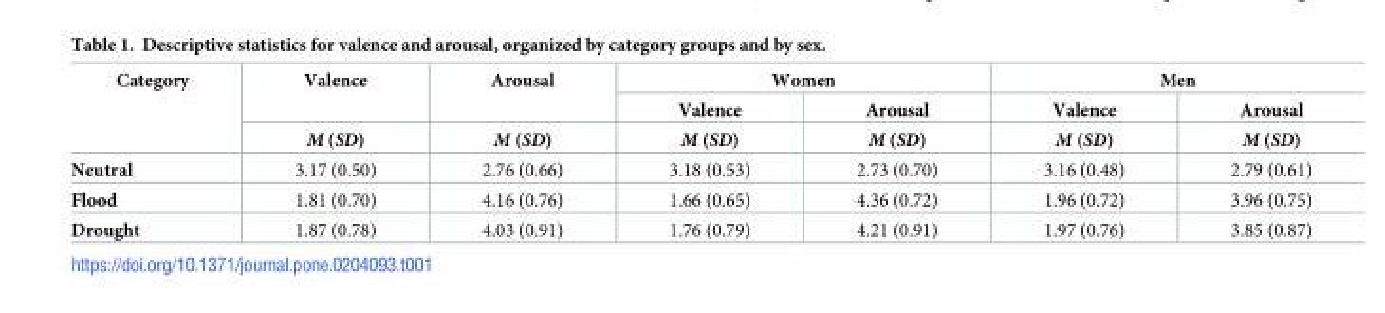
<table><thead><tr><td rowspan="3">Category</td><td rowspan="3">Valence M (SD)</td><td rowspan="3">Arousal M (SD)</td><td colspan="2">Women</td><td colspan="2">Men</td></tr><tr><td rowspan="2">Valence M (SD)</td><td rowspan="2">Arousal M (SD)</td><td rowspan="2">Valence M (SD)</td><td rowspan="2">Arousal M (SD)</td></tr><tr></tr></thead><tbody><tr><td>Neutral</td><td>3.17 (0.50)</td><td>2.76 (0.66)</td><td>3.18 (0.53)</td><td>2.73 (0.70)</td><td>3.16 (0.48)</td><td>2.79 (0.61)</td></tr><tr><td>Flood</td><td>1.81 (0.70)</td><td>4.16 (0.76)</td><td>1.66 (0.65)</td><td>4.36 (0.72)</td><td>1.96 (0.72)</td><td>3.96 (0.75)</td></tr><tr><td>Drought</td><td>1.87 (0.78)</td><td>4.03 (0.91)</td><td>1.76 (0.79)</td><td>4.21 (0.91)</td><td>1.97 (0.76)</td><td>3.85 (0.87)</td></tr></tbody></table>